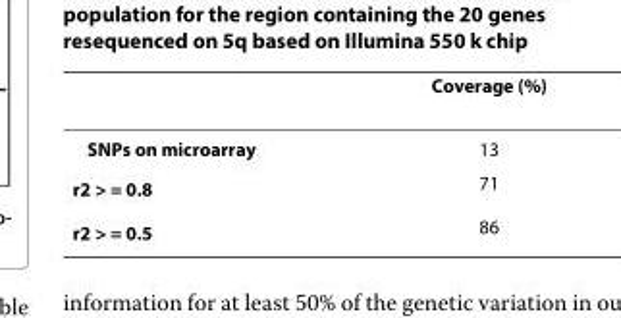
<table><thead><tr><td></td><td>Coverage (%)</td></tr></thead><tbody><tr><td>SNPs on microarray</td><td>13</td></tr><tr><td>r<sup>2</sup> &gt; = 0.8</td><td>71</td></tr><tr><td>r<sup>2</sup> &gt; = 0.5</td><td>86</td></tr></tbody></table>